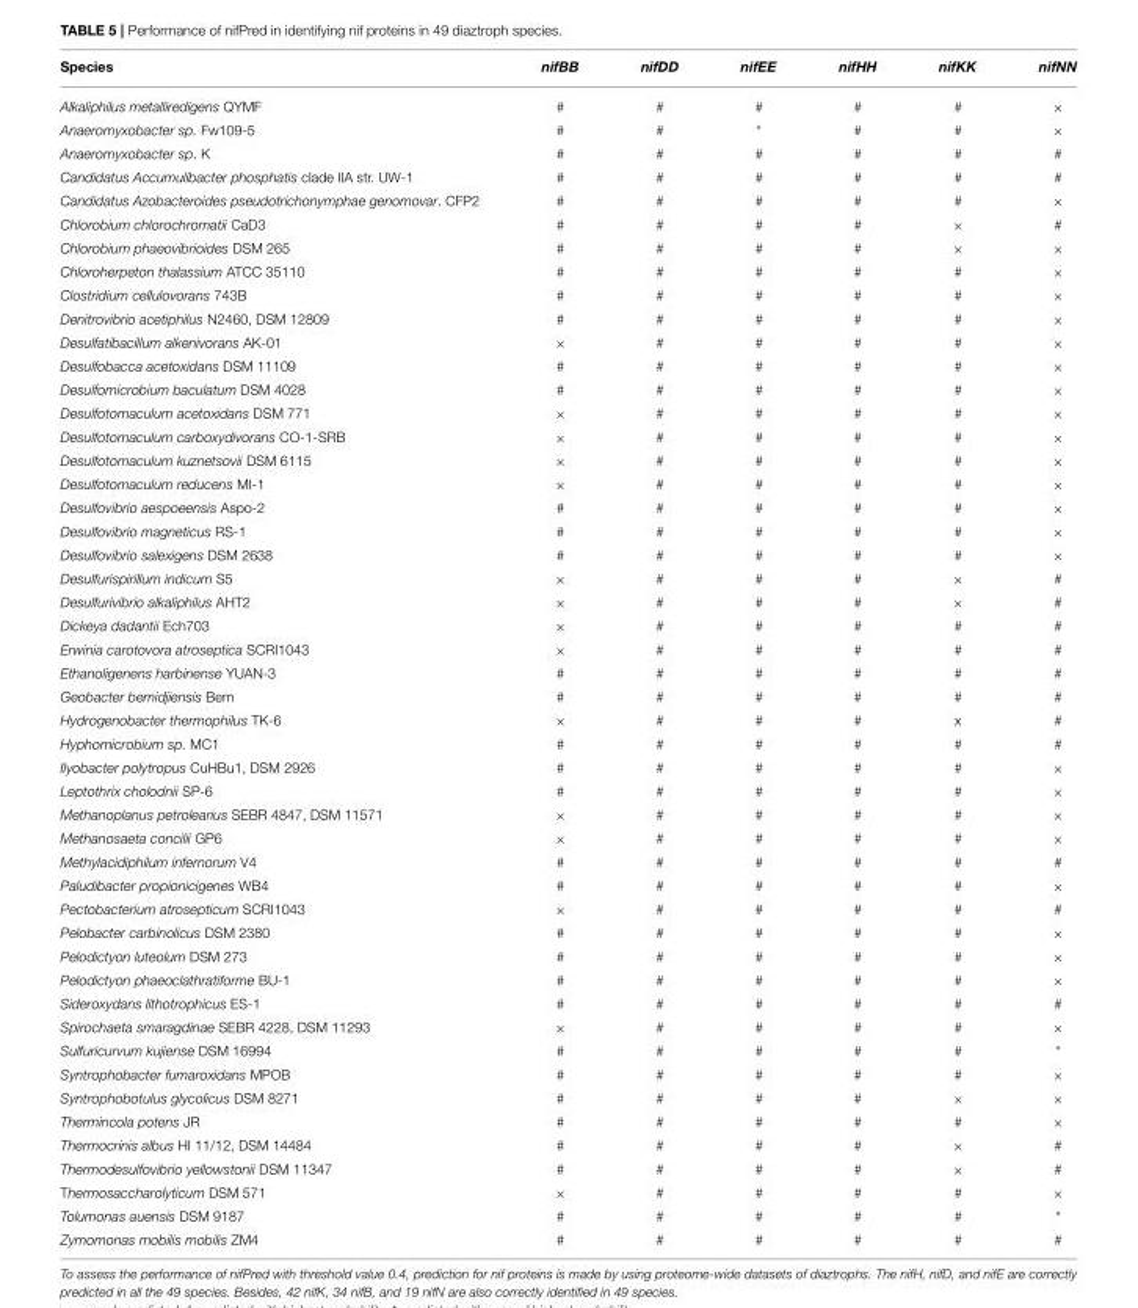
<table><thead><tr><td>Species</td><td>nifBB</td><td>nifDD</td><td>nifEE</td><td>nifHH</td><td>nifKK</td><td>nifNN</td></tr></thead><tbody><tr><td>Alkaliphilus metalliredigens QYMF</td><td><sup>#</sup></td><td><sup>#</sup></td><td><sup>#</sup></td><td><sup>#</sup></td><td><sup>#</sup></td><td><sup>×</sup></td></tr><tr><td>Anaeromyxobacter sp. Fw109-5</td><td><sup>#</sup></td><td><sup>#</sup></td><td>*</td><td><sup>#</sup></td><td><sup>#</sup></td><td><sup>×</sup></td></tr><tr><td>Anaeromyxobacter sp. K</td><td><sup>#</sup></td><td><sup>#</sup></td><td><sup>#</sup></td><td><sup>#</sup></td><td><sup>#</sup></td><td><sup>#</sup></td></tr><tr><td>Candidatus Accumulibacter phosphatis clade IIA str. UW-1</td><td><sup>#</sup></td><td><sup>#</sup></td><td><sup>#</sup></td><td><sup>#</sup></td><td><sup>#</sup></td><td><sup>#</sup></td></tr><tr><td>Candidatus Azobacteroides pseudotrichonymphae genomovar. CFP2</td><td><sup>#</sup></td><td><sup>#</sup></td><td><sup>#</sup></td><td><sup>#</sup></td><td><sup>#</sup></td><td><sup>×</sup></td></tr><tr><td>Chlorobium chlorochromatii CaD3</td><td><sup>#</sup></td><td><sup>#</sup></td><td><sup>#</sup></td><td><sup>#</sup></td><td><sup>×</sup></td><td><sup>#</sup></td></tr><tr><td>Chlorobium phaeovibrioides DSM 265</td><td><sup>#</sup></td><td><sup>#</sup></td><td><sup>#</sup></td><td><sup>#</sup></td><td><sup>×</sup></td><td><sup>×</sup></td></tr><tr><td>Chloroherpeton thalassium ATCC 35110</td><td><sup>#</sup></td><td><sup>#</sup></td><td><sup>#</sup></td><td><sup>#</sup></td><td><sup>#</sup></td><td><sup>×</sup></td></tr><tr><td>Clostridium cellulovorans 743B</td><td><sup>#</sup></td><td><sup>#</sup></td><td><sup>#</sup></td><td><sup>#</sup></td><td><sup>#</sup></td><td><sup>×</sup></td></tr><tr><td>Denitrovibrio acetiphilus N2460, DSM 12809</td><td><sup>#</sup></td><td><sup>#</sup></td><td><sup>#</sup></td><td><sup>#</sup></td><td><sup>#</sup></td><td><sup>×</sup></td></tr><tr><td>Desulfatibacillum alkenivorans AK-01</td><td><sup>×</sup></td><td><sup>#</sup></td><td><sup>#</sup></td><td><sup>#</sup></td><td><sup>#</sup></td><td><sup>×</sup></td></tr><tr><td>Desulfobacca acetoxidans DSM 11109</td><td><sup>#</sup></td><td><sup>#</sup></td><td><sup>#</sup></td><td><sup>#</sup></td><td><sup>#</sup></td><td><sup>×</sup></td></tr><tr><td>Desulfomicrobium baculatum DSM 4028</td><td><sup>#</sup></td><td><sup>#</sup></td><td><sup>#</sup></td><td><sup>#</sup></td><td><sup>#</sup></td><td><sup>×</sup></td></tr><tr><td>Desulfotomaculum acetoxidans DSM 771</td><td><sup>×</sup></td><td><sup>#</sup></td><td><sup>#</sup></td><td><sup>#</sup></td><td><sup>#</sup></td><td><sup>×</sup></td></tr><tr><td>Desulfotomaculum carboxydivorans CO-1-SRB</td><td><sup>×</sup></td><td><sup>#</sup></td><td><sup>#</sup></td><td><sup>#</sup></td><td><sup>#</sup></td><td><sup>×</sup></td></tr><tr><td>Desulfotomaculum kuznetsovii DSM 6115</td><td><sup>×</sup></td><td><sup>#</sup></td><td><sup>#</sup></td><td><sup>#</sup></td><td><sup>#</sup></td><td><sup>×</sup></td></tr><tr><td>Desulfotomaculum reducens MI-1</td><td><sup>×</sup></td><td><sup>#</sup></td><td><sup>#</sup></td><td><sup>#</sup></td><td><sup>#</sup></td><td><sup>×</sup></td></tr><tr><td>Desulfovibrio aespoeensis Aspo-2</td><td><sup>#</sup></td><td><sup>#</sup></td><td><sup>#</sup></td><td><sup>#</sup></td><td><sup>#</sup></td><td><sup>×</sup></td></tr><tr><td>Desulfovibrio magneticus RS-1</td><td><sup>#</sup></td><td><sup>#</sup></td><td><sup>#</sup></td><td><sup>#</sup></td><td><sup>#</sup></td><td><sup>×</sup></td></tr><tr><td>Desulfovibrio salexigens DSM 2638</td><td><sup>#</sup></td><td><sup>#</sup></td><td><sup>#</sup></td><td><sup>#</sup></td><td><sup>#</sup></td><td><sup>×</sup></td></tr><tr><td>Desulfurispirillum indicum S5</td><td><sup>×</sup></td><td><sup>#</sup></td><td><sup>#</sup></td><td><sup>#</sup></td><td><sup>×</sup></td><td><sup>#</sup></td></tr><tr><td>Desulfurivibrio alkaliphilus AHT2</td><td><sup>×</sup></td><td><sup>#</sup></td><td><sup>#</sup></td><td><sup>#</sup></td><td><sup>×</sup></td><td><sup>#</sup></td></tr><tr><td>Dickeya dadantii Ech703</td><td><sup>×</sup></td><td><sup>#</sup></td><td><sup>#</sup></td><td><sup>#</sup></td><td><sup>#</sup></td><td><sup>#</sup></td></tr><tr><td>Erwinia carotovora atroseptica SCRI1043</td><td><sup>×</sup></td><td><sup>#</sup></td><td><sup>#</sup></td><td><sup>#</sup></td><td><sup>#</sup></td><td><sup>#</sup></td></tr><tr><td>Ethanoligenens harbinense YUAN-3</td><td><sup>#</sup></td><td><sup>#</sup></td><td><sup>#</sup></td><td><sup>#</sup></td><td><sup>#</sup></td><td><sup>#</sup></td></tr><tr><td>Geobacter bemidjiensis Bem</td><td><sup>#</sup></td><td><sup>#</sup></td><td><sup>#</sup></td><td><sup>#</sup></td><td><sup>#</sup></td><td><sup>#</sup></td></tr><tr><td>Hydrogenobacter thermophilus TK-6</td><td><sup>×</sup></td><td><sup>#</sup></td><td><sup>#</sup></td><td><sup>#</sup></td><td>x</td><td><sup>#</sup></td></tr><tr><td>Hyphomicrobium sp. MC1</td><td><sup>#</sup></td><td><sup>#</sup></td><td><sup>#</sup></td><td><sup>#</sup></td><td><sup>#</sup></td><td><sup>#</sup></td></tr><tr><td>Ilyobacter polytropus CuHBu1, DSM 2926</td><td><sup>#</sup></td><td><sup>#</sup></td><td><sup>#</sup></td><td><sup>#</sup></td><td><sup>#</sup></td><td><sup>×</sup></td></tr><tr><td>Leptothrix cholodnii SP-6</td><td><sup>#</sup></td><td><sup>#</sup></td><td><sup>#</sup></td><td><sup>#</sup></td><td><sup>#</sup></td><td><sup>×</sup></td></tr><tr><td>Methanoplanus petrolearius SEBR 4847, DSM 11571</td><td><sup>×</sup></td><td><sup>#</sup></td><td><sup>#</sup></td><td><sup>#</sup></td><td><sup>#</sup></td><td><sup>×</sup></td></tr><tr><td>Methanosaeta concilii GP6</td><td><sup>×</sup></td><td><sup>#</sup></td><td><sup>#</sup></td><td><sup>#</sup></td><td><sup>#</sup></td><td><sup>×</sup></td></tr><tr><td>Methylacidiphilum infernorum V4</td><td><sup>#</sup></td><td><sup>#</sup></td><td><sup>#</sup></td><td><sup>#</sup></td><td><sup>#</sup></td><td><sup>#</sup></td></tr><tr><td>Paludibacter propionicigenes WB4</td><td><sup>#</sup></td><td><sup>#</sup></td><td><sup>#</sup></td><td><sup>#</sup></td><td><sup>#</sup></td><td><sup>×</sup></td></tr><tr><td>Pectobacterium atrosepticum SCRI1043</td><td><sup>×</sup></td><td><sup>#</sup></td><td><sup>#</sup></td><td><sup>#</sup></td><td><sup>#</sup></td><td><sup>#</sup></td></tr><tr><td>Pelobacter carbinolicus DSM 2380</td><td><sup>#</sup></td><td><sup>#</sup></td><td><sup>#</sup></td><td><sup>#</sup></td><td><sup>#</sup></td><td><sup>×</sup></td></tr><tr><td>Pelodictyon luteolum DSM 273</td><td><sup>#</sup></td><td><sup>#</sup></td><td><sup>#</sup></td><td><sup>#</sup></td><td><sup>#</sup></td><td><sup>×</sup></td></tr><tr><td>Pelodictyon phaeoclathratiforme BU-1</td><td><sup>#</sup></td><td><sup>#</sup></td><td><sup>#</sup></td><td><sup>#</sup></td><td><sup>#</sup></td><td><sup>×</sup></td></tr><tr><td>Sideroxydans lithotrophicus ES-1</td><td><sup>#</sup></td><td><sup>#</sup></td><td><sup>#</sup></td><td><sup>#</sup></td><td><sup>#</sup></td><td><sup>#</sup></td></tr><tr><td>Spirochaeta smaragdinae SEBR 4228, DSM 11293</td><td><sup>×</sup></td><td><sup>#</sup></td><td><sup>#</sup></td><td><sup>#</sup></td><td><sup>#</sup></td><td><sup>×</sup></td></tr><tr><td>Sulfuricurvum kujiense DSM 16994</td><td><sup>#</sup></td><td><sup>#</sup></td><td><sup>#</sup></td><td><sup>#</sup></td><td><sup>#</sup></td><td>*</td></tr><tr><td>Syntrophobacter fumaroxidans MPOB</td><td><sup>#</sup></td><td><sup>#</sup></td><td><sup>#</sup></td><td><sup>#</sup></td><td><sup>#</sup></td><td><sup>×</sup></td></tr><tr><td>Syntrophobotulus glycolicus DSM 8271</td><td><sup>#</sup></td><td><sup>#</sup></td><td><sup>#</sup></td><td><sup>#</sup></td><td><sup>×</sup></td><td><sup>×</sup></td></tr><tr><td>Thermincola potens JR</td><td><sup>#</sup></td><td><sup>#</sup></td><td><sup>#</sup></td><td><sup>#</sup></td><td><sup>#</sup></td><td><sup>×</sup></td></tr><tr><td>Thermocrinis albus HI 11/12, DSM 14484</td><td><sup>#</sup></td><td><sup>#</sup></td><td><sup>#</sup></td><td><sup>#</sup></td><td><sup>×</sup></td><td><sup>#</sup></td></tr><tr><td>Thermodesulfovibrio yellowstonii DSM 11347</td><td><sup>#</sup></td><td><sup>#</sup></td><td><sup>#</sup></td><td><sup>#</sup></td><td><sup>×</sup></td><td><sup>#</sup></td></tr><tr><td>Thermosaccharolyticum DSM 571</td><td><sup>×</sup></td><td><sup>#</sup></td><td><sup>#</sup></td><td><sup>#</sup></td><td><sup>#</sup></td><td><sup>×</sup></td></tr><tr><td>Tolumonas auensis DSM 9187</td><td><sup>#</sup></td><td><sup>#</sup></td><td><sup>#</sup></td><td><sup>#</sup></td><td><sup>#</sup></td><td>*</td></tr><tr><td>Zymomonas mobilis mobilis ZM4</td><td><sup>#</sup></td><td><sup>#</sup></td><td><sup>#</sup></td><td><sup>#</sup></td><td><sup>#</sup></td><td><sup>#</sup></td></tr></tbody></table>